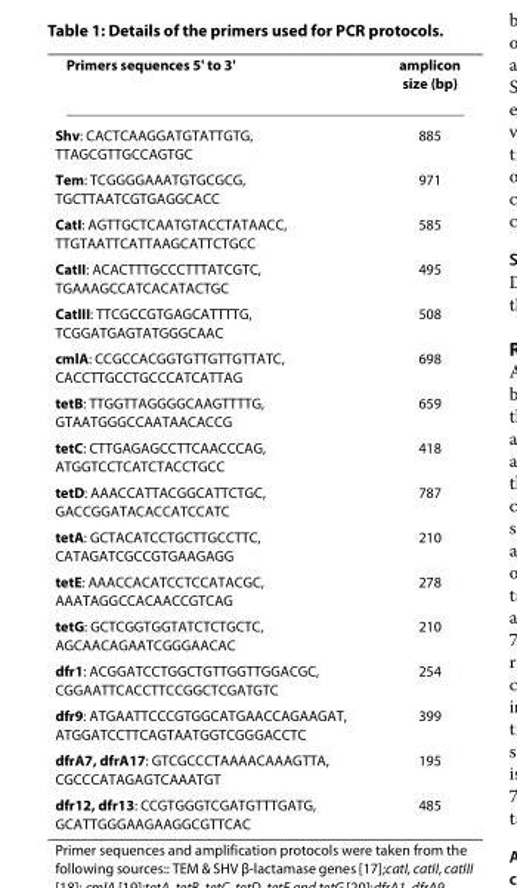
<table><thead><tr><td>Primers sequences 5&#x27; to 3&#x27;</td><td>amplicon size (bp)</td></tr></thead><tbody><tr><td>Shv: CACTCAAGGATGTATTGTG, TTAGCGTTGCCAGTGC</td><td>885</td></tr><tr><td>Tem: TCGGGGAAATGTGCGCG, TGCTTAATCGTGAGGCACC</td><td>971</td></tr><tr><td>CatI: AGTTGCTCAATGTACCTATAACC, TTGTAATTCATTAAGCATTCTGCC</td><td>585</td></tr><tr><td>CatII: ACACTTTGCCCTTTATCGTC, TGAAAGCCATCACATACTGC</td><td>495</td></tr><tr><td>CatIII: TTCGCCGTGAGCATTTTG, TCGGATGAGTATGGGCAAC</td><td>508</td></tr><tr><td>cmlA: CCGCCACGGTGTTGTTGTTATC, CACCTTGCCTGCCCATCATTAG</td><td>698</td></tr><tr><td>tetB: TTGGTTAGGGGCAAGTTTTG, GTAATGGGCCAATAACACCG</td><td>659</td></tr><tr><td>tetC: CTTGAGAGCCTTCAACCCAG, ATGGTCCTCATCTACCTGCC</td><td>418</td></tr><tr><td>tetD: AAACCATTACGGCATTCTGC, GACCGGATACACCATCCATC</td><td>787</td></tr><tr><td>tetA: GCTACATCCTGCTTGCCTTC, CATAGATCGCCGTGAAGAGG</td><td>210</td></tr><tr><td>tetE: AAACCACATCCTCCATACGC, AAATAGGCCACAACCGTCAG</td><td>278</td></tr><tr><td>tetG: GCTCGGTGGTATCTCTGCTC, AGCAACAGAATCGGGAACAC</td><td>210</td></tr><tr><td>dfr1: ACGGATCCTGGCTGTTGGTTGGACGC, CGGAATTCACCTTCCGGCTCGATGTC</td><td>254</td></tr><tr><td>dfr9: ATGAATTCCCGTGGCATGAACCAGAAGAT, ATGGATCCTTCAGTAATGGTCGGGACCTC</td><td>399</td></tr><tr><td>dfrA7, dfrA17: GTCGCCCTAAAACAAAGTTA, CGCCCATAGAGTCAAATGT</td><td>195</td></tr><tr><td>dfr12, dfr13: CCGTGGGTCGATGTTTGATG, GCATTGGGAAGAAGGCGTTCAC</td><td>485</td></tr></tbody></table>